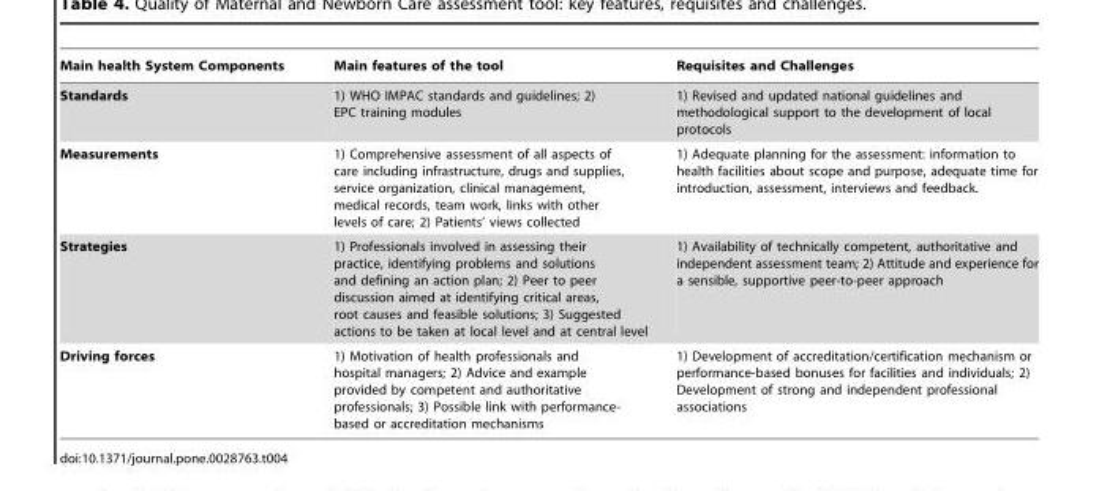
<table><thead><tr><td>Main health System Components</td><td>Main features of the tool</td><td>Requisites and Challenges</td></tr></thead><tbody><tr><td>Standards</td><td>1) WHO IMPAC standards and guidelines; 2) EPC training modules</td><td>1) Revised and updated national guidelines and methodological support to the development of local protocols</td></tr><tr><td>Measurements</td><td>1) Comprehensive assessment of all aspects of care including infrastructure, drugs and supplies, service organization, clinical management, medical records, team work, links with other levels of care; 2) Patients’ views collected</td><td>1) Adequate planning for the assessment: information to health facilities about scope and purpose, adequate time for introduction, assessment, interviews and feedback.</td></tr><tr><td>Strategies</td><td>1) Professionals involved in assessing their practice, identifying problems and solutions and defining an action plan; 2) Peer to peer discussion aimed at identifying critical areas, root causes and feasible solutions; 3) Suggested actions to be taken at local level and at central level</td><td>1) Availability of technically competent, authoritative and independent assessment team; 2) Attitude and experience for a sensible, supportive peer-to-peer approach</td></tr><tr><td>Driving forces</td><td>1) Motivation of health professionals and hospital managers; 2) Advice and example provided by competent and authoritative professionals; 3) Possible link with performance- based or accreditation mechanisms</td><td>1) Development of accreditation/certification mechanism or performance-based bonuses for facilities and individuals; 2) Development of strong and independent professional associations</td></tr></tbody></table>